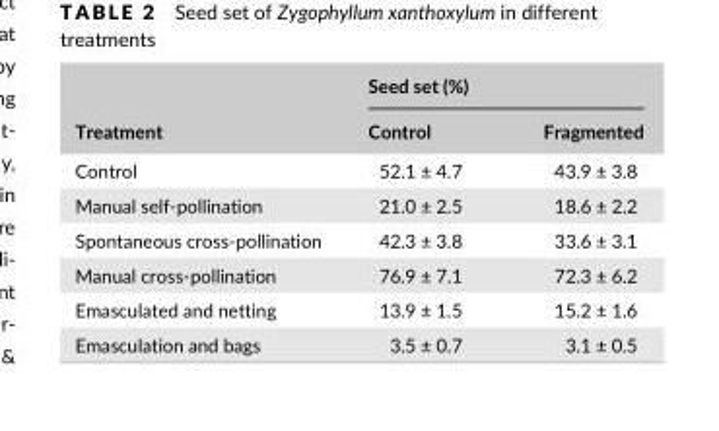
<table><thead><tr><td rowspan="2">Treatment</td><td colspan="2">Seed set (%)</td></tr><tr><td>Control</td><td>Fragmented</td></tr></thead><tbody><tr><td>Control</td><td>52.1 ± 4.7</td><td>43.9 ± 3.8</td></tr><tr><td>Manual self- pollination</td><td>21.0 ± 2.5</td><td>18.6 ± 2.2</td></tr><tr><td>Spontaneous cross- pollination</td><td>42.3 ± 3.8</td><td>33.6 ± 3.1</td></tr><tr><td>Manual cross- pollination</td><td>76.9 ± 7.1</td><td>72.3 ± 6.2</td></tr><tr><td>Emasculated and netting</td><td>13.9 ± 1.5</td><td>15.2 ± 1.6</td></tr><tr><td>Emasculation and bags</td><td>3.5 ± 0.7</td><td>3.1 ± 0.5</td></tr></tbody></table>